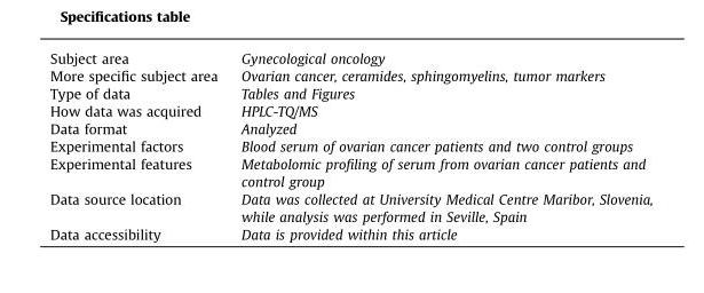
<table><tbody><tr><td>Subject area</td><td>Gynecological oncology</td></tr><tr><td>More specific subject area</td><td>Ovarian cancer, ceramides, sphingomyelins, tumor markers</td></tr><tr><td>Type of data</td><td>Tables and Figures</td></tr><tr><td>How data was acquired</td><td>HPLC-TQ/MS</td></tr><tr><td>Data format</td><td>Analyzed</td></tr><tr><td>Experimental factors</td><td>Blood serum of ovarian cancer patients and two control groups</td></tr><tr><td>Experimental features</td><td>Metabolomic profiling of serum from ovarian cancer patients and control group</td></tr><tr><td>Data source location</td><td>Data was collected at University Medical Centre Maribor, Slovenia, while analysis was performed in Seville, Spain</td></tr><tr><td>Data accessibility</td><td>Data is provided within this article</td></tr></tbody></table>